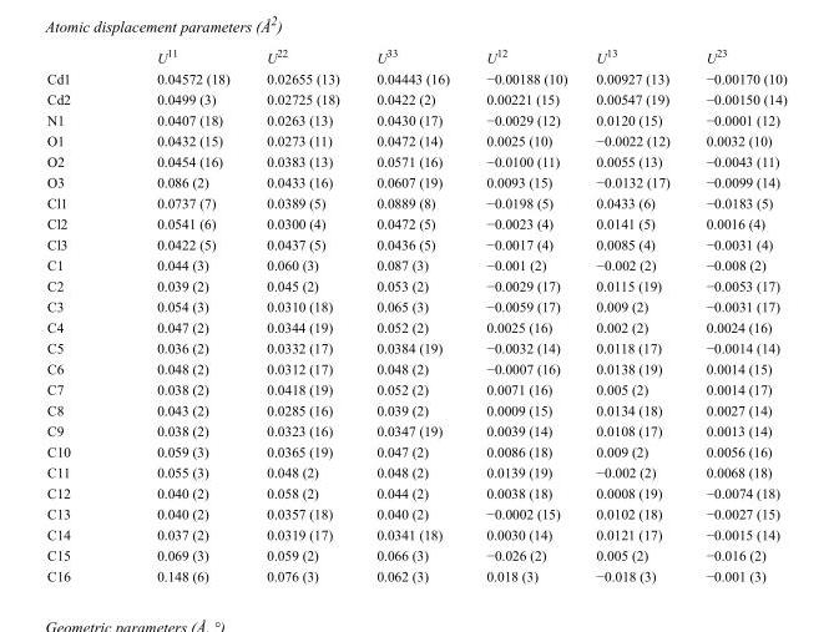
<table><thead><tr><td></td><td>U<sup>11</sup></td><td>U<sup>22</sup></td><td>U<sup>33</sup></td><td>U<sup>12</sup></td><td>U<sup>13</sup></td><td>U<sup>23</sup></td></tr></thead><tbody><tr><td>Cd1</td><td>0.04572 (18)</td><td>0.02655 (13)</td><td>0.04443 (16)</td><td>−0.00188 (10)</td><td>0.00927 (13)</td><td>−0.00170 (10)</td></tr><tr><td>Cd2</td><td>0.0499 (3)</td><td>0.02725 (18)</td><td>0.0422 (2)</td><td>0.00221 (15)</td><td>0.00547 (19)</td><td>−0.00150 (14)</td></tr><tr><td>N1</td><td>0.0407 (18)</td><td>0.0263 (13)</td><td>0.0430 (17)</td><td>−0.0029 (12)</td><td>0.0120 (15)</td><td>−0.0001 (12)</td></tr><tr><td>O1</td><td>0.0432 (15)</td><td>0.0273 (11)</td><td>0.0472 (14)</td><td>0.0025 (10)</td><td>−0.0022 (12)</td><td>0.0032 (10)</td></tr><tr><td>O2</td><td>0.0454 (16)</td><td>0.0383 (13)</td><td>0.0571 (16)</td><td>−0.0100 (11)</td><td>0.0055 (13)</td><td>−0.0043 (11)</td></tr><tr><td>O3</td><td>0.086 (2)</td><td>0.0433 (16)</td><td>0.0607 (19)</td><td>0.0093 (15)</td><td>−0.0132 (17)</td><td>−0.0099 (14)</td></tr><tr><td>Cl1</td><td>0.0737 (7)</td><td>0.0389 (5)</td><td>0.0889 (8)</td><td>−0.0198 (5)</td><td>0.0433 (6)</td><td>−0.0183 (5)</td></tr><tr><td>Cl2</td><td>0.0541 (6)</td><td>0.0300 (4)</td><td>0.0472 (5)</td><td>−0.0023 (4)</td><td>0.0141 (5)</td><td>0.0016 (4)</td></tr><tr><td>Cl3</td><td>0.0422 (5)</td><td>0.0437 (5)</td><td>0.0436 (5)</td><td>−0.0017 (4)</td><td>0.0085 (4)</td><td>−0.0031 (4)</td></tr><tr><td>C1</td><td>0.044 (3)</td><td>0.060 (3)</td><td>0.087 (3)</td><td>−0.001 (2)</td><td>−0.002 (2)</td><td>−0.008 (2)</td></tr><tr><td>C2</td><td>0.039 (2)</td><td>0.045 (2)</td><td>0.053 (2)</td><td>−0.0029 (17)</td><td>0.0115 (19)</td><td>−0.0053 (17)</td></tr><tr><td>C3</td><td>0.054 (3)</td><td>0.0310 (18)</td><td>0.065 (3)</td><td>−0.0059 (17)</td><td>0.009 (2)</td><td>−0.0031 (17)</td></tr><tr><td>C4</td><td>0.047 (2)</td><td>0.0344 (19)</td><td>0.052 (2)</td><td>0.0025 (16)</td><td>0.002 (2)</td><td>0.0024 (16)</td></tr><tr><td>C5</td><td>0.036 (2)</td><td>0.0332 (17)</td><td>0.0384 (19)</td><td>−0.0032 (14)</td><td>0.0118 (17)</td><td>−0.0014 (14)</td></tr><tr><td>C6</td><td>0.048 (2)</td><td>0.0312 (17)</td><td>0.048 (2)</td><td>−0.0007 (16)</td><td>0.0138 (19)</td><td>0.0014 (15)</td></tr><tr><td>C7</td><td>0.038 (2)</td><td>0.0418 (19)</td><td>0.052 (2)</td><td>0.0071 (16)</td><td>0.005 (2)</td><td>0.0014 (17)</td></tr><tr><td>C8</td><td>0.043 (2)</td><td>0.0285 (16)</td><td>0.039 (2)</td><td>0.0009 (15)</td><td>0.0134 (18)</td><td>0.0027 (14)</td></tr><tr><td>C9</td><td>0.038 (2)</td><td>0.0323 (16)</td><td>0.0347 (19)</td><td>0.0039 (14)</td><td>0.0108 (17)</td><td>0.0013 (14)</td></tr><tr><td>C10</td><td>0.059 (3)</td><td>0.0365 (19)</td><td>0.047 (2)</td><td>0.0086 (18)</td><td>0.009 (2)</td><td>0.0056 (16)</td></tr><tr><td>C11</td><td>0.055 (3)</td><td>0.048 (2)</td><td>0.048 (2)</td><td>0.0139 (19)</td><td>−0.002 (2)</td><td>0.0068 (18)</td></tr><tr><td>C12</td><td>0.040 (2)</td><td>0.058 (2)</td><td>0.044 (2)</td><td>0.0038 (18)</td><td>0.0008 (19)</td><td>−0.0074 (18)</td></tr><tr><td>C13</td><td>0.040 (2)</td><td>0.0357 (18)</td><td>0.040 (2)</td><td>−0.0002 (15)</td><td>0.0102 (18)</td><td>−0.0027 (15)</td></tr><tr><td>C14</td><td>0.037 (2)</td><td>0.0319 (17)</td><td>0.0341 (18)</td><td>0.0030 (14)</td><td>0.0121 (17)</td><td>−0.0015 (14)</td></tr><tr><td>C15</td><td>0.069 (3)</td><td>0.059 (2)</td><td>0.066 (3)</td><td>−0.026 (2)</td><td>0.005 (2)</td><td>−0.016 (2)</td></tr><tr><td>C16</td><td>0.148 (6)</td><td>0.076 (3)</td><td>0.062 (3)</td><td>0.018 (3)</td><td>−0.018 (3)</td><td>−0.001 (3)</td></tr></tbody></table>